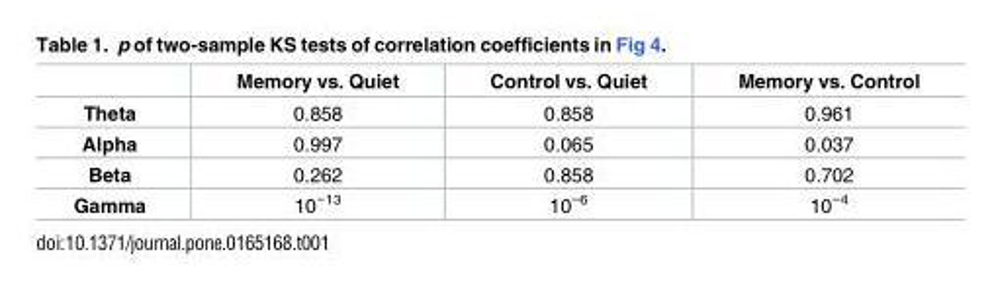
<table><thead><tr><td></td><td>Memory vs. Quiet</td><td>Control vs. Quiet</td><td>Memory vs. Control</td></tr></thead><tbody><tr><td>Theta</td><td>0.858</td><td>0.858</td><td>0.961</td></tr><tr><td>Alpha</td><td>0.997</td><td>0.065</td><td>0.037</td></tr><tr><td>Beta</td><td>0.262</td><td>0.858</td><td>0.702</td></tr><tr><td>Gamma</td><td>10<sup>−13</sup></td><td>10<sup>−6</sup></td><td>10<sup>−4</sup></td></tr></tbody></table>